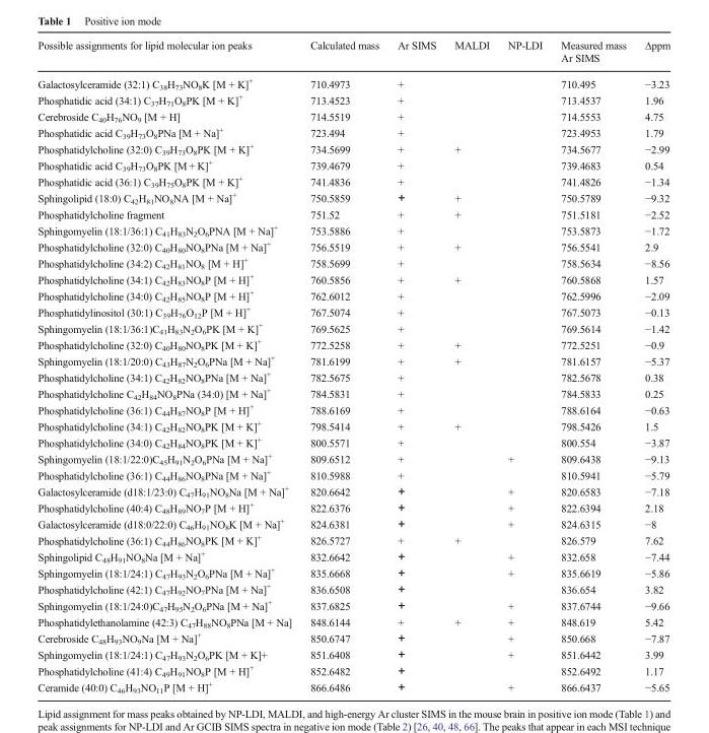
<table><thead><tr><td>Possible assignments for lipid molecular ion peaks</td><td>Calculated mass</td><td>Ar SIMS</td><td>MALDI</td><td>NP-LDI</td><td>Measured mass Ar SIMS</td><td>Δppm</td></tr></thead><tbody><tr><td>Galactosylceramide (32:1) C<sub>38</sub>H<sub>73</sub>NO<sub>8</sub>K [M + K]<sup>+</sup></td><td>710.4973</td><td>+</td><td></td><td></td><td>710.495</td><td>−3.23</td></tr><tr><td>Phosphatidic acid (34:1) C<sub>37</sub>H<sub>71</sub>O<sub>8</sub>PK [M + K]<sup>+</sup></td><td>713.4523</td><td>+</td><td></td><td></td><td>713.4537</td><td>1.96</td></tr><tr><td>Cerebroside C<sub>40</sub>H<sub>76</sub>NO<sub>9</sub> [M + H]</td><td>714.5519</td><td>+</td><td></td><td></td><td>714.5553</td><td>4.75</td></tr><tr><td>Phosphatidic acid C<sub>39</sub>H<sub>73</sub>O<sub>8</sub>PNa [M + Na]<sup>+</sup></td><td>723.494</td><td>+</td><td></td><td></td><td>723.4953</td><td>1.79</td></tr><tr><td>Phosphatidylcholine (32:0) C<sub>39</sub>H<sub>73</sub>O<sub>8</sub>PK [M + K]<sup>+</sup></td><td>734.5699</td><td>+</td><td>+</td><td></td><td>734.5677</td><td>−2.99</td></tr><tr><td>Phosphatidic acid C<sub>39</sub>H<sub>73</sub>O<sub>8</sub>PK [M + K]<sup>+</sup></td><td>739.4679</td><td>+</td><td></td><td></td><td>739.4683</td><td>0.54</td></tr><tr><td>Phosphatidic acid (36:1) C<sub>39</sub>H<sub>75</sub>O<sub>8</sub>PK [M + K]<sup>+</sup></td><td>741.4836</td><td>+</td><td></td><td></td><td>741.4826</td><td>−1.34</td></tr><tr><td>Sphingolipid (18:0) C<sub>42</sub>H<sub>81</sub>NO<sub>8</sub>NA [M + Na]<sup>+</sup></td><td>750.5859</td><td>+</td><td>+</td><td></td><td>750.5789</td><td>−9.32</td></tr><tr><td>Phosphatidylcholine fragment</td><td>751.52</td><td>+</td><td>+</td><td></td><td>751.5181</td><td>−2.52</td></tr><tr><td>Sphingomyelin (18:1/36:1) C<sub>41</sub>H<sub>83</sub>N<sub>2</sub>O<sub>6</sub>PNA [M + Na]<sup>+</sup></td><td>753.5886</td><td>+</td><td></td><td></td><td>753.5873</td><td>−1.72</td></tr><tr><td>Phosphatidylcholine (32:0) C<sub>40</sub>H<sub>80</sub>NO<sub>8</sub>PNa [M + Na]<sup>+</sup></td><td>756.5519</td><td>+</td><td>+</td><td></td><td>756.5541</td><td>2.9</td></tr><tr><td>Phosphatidylcholine (34:2) C<sub>42</sub>H<sub>81</sub>NO<sub>8</sub> [M + H]<sup>+</sup></td><td>758.5699</td><td>+</td><td></td><td></td><td>758.5634</td><td>−8.56</td></tr><tr><td>Phosphatidylcholine (34:1) C<sub>42</sub>H<sub>83</sub>NO<sub>8</sub>P [M + H]<sup>+</sup></td><td>760.5856</td><td>+</td><td>+</td><td></td><td>760.5868</td><td>1.57</td></tr><tr><td>Phosphatidylcholine (34:0) C<sub>42</sub>H<sub>85</sub>NO<sub>8</sub>P [M + H]<sup>+</sup></td><td>762.6012</td><td>+</td><td></td><td></td><td>762.5996</td><td>−2.09</td></tr><tr><td>Phosphatidylinositol (30:1) C<sub>39</sub>H<sub>76</sub>O<sub>12</sub>P [M + H]<sup>+</sup></td><td>767.5074</td><td>+</td><td></td><td></td><td>767.5073</td><td>−0.13</td></tr><tr><td>Sphingomyelin (18:1/36:1)C<sub>41</sub>H<sub>83</sub>N<sub>2</sub>O<sub>6</sub>PK [M + K]<sup>+</sup></td><td>769.5625</td><td>+</td><td></td><td></td><td>769.5614</td><td>−1.42</td></tr><tr><td>Phosphatidylcholine (32:0) C<sub>40</sub>H<sub>80</sub>NO<sub>8</sub>PK [M + K]<sup>+</sup></td><td>772.5258</td><td>+</td><td>+</td><td></td><td>772.5251</td><td>−0.9</td></tr><tr><td>Sphingomyelin (18:1/20:0) C<sub>43</sub>H<sub>87</sub>N<sub>2</sub>O<sub>6</sub>PNa [M + Na]<sup>+</sup></td><td>781.6199</td><td>+</td><td>+</td><td></td><td>781.6157</td><td>−5.37</td></tr><tr><td>Phosphatidylcholine (34:1) C<sub>42</sub>H<sub>82</sub>NO<sub>8</sub>PNa [M + Na]<sup>+</sup></td><td>782.5675</td><td>+</td><td></td><td></td><td>782.5678</td><td>0.38</td></tr><tr><td>Phosphatidylcholine C<sub>42</sub>H<sub>84</sub>NO<sub>8</sub>PNa (34:0) [M + Na]<sup>+</sup></td><td>784.5831</td><td>+</td><td></td><td></td><td>784.5833</td><td>0.25</td></tr><tr><td>Phosphatidylcholine (36:1) C<sub>44</sub>H<sub>87</sub>NO<sub>8</sub>P [M + H]<sup>+</sup></td><td>788.6169</td><td>+</td><td></td><td></td><td>788.6164</td><td>−0.63</td></tr><tr><td>Phosphatidylcholine (34:1) C<sub>42</sub>H<sub>82</sub>NO<sub>8</sub>PK [M + K]<sup>+</sup></td><td>798.5414</td><td>+</td><td>+</td><td></td><td>798.5426</td><td>1.5</td></tr><tr><td>Phosphatidylcholine (34:0) C<sub>42</sub>H<sub>84</sub>NO<sub>8</sub>PK [M + K]<sup>+</sup></td><td>800.5571</td><td>+</td><td></td><td></td><td>800.554</td><td>−3.87</td></tr><tr><td>Sphingomyelin (18:1/22:0)C<sub>45</sub>H<sub>91</sub>N<sub>2</sub>O<sub>6</sub>PNa [M + Na]<sup>+</sup></td><td>809.6512</td><td>+</td><td></td><td>+</td><td>809.6438</td><td>−9.13</td></tr><tr><td>Phosphatidylcholine (36:1) C<sub>44</sub>H<sub>86</sub>NO<sub>8</sub>PNa [M + Na]<sup>+</sup></td><td>810.5988</td><td>+</td><td></td><td></td><td>810.5941</td><td>−5.79</td></tr><tr><td>Galactosylceramide (d18:1/23:0) C<sub>47</sub>H<sub>91</sub>NO<sub>8</sub>Na [M + Na]<sup>+</sup></td><td>820.6642</td><td>+</td><td></td><td>+</td><td>820.6583</td><td>−7.18</td></tr><tr><td>Phosphatidylcholine (40:4) C<sub>48</sub>H<sub>89</sub>NO<sub>7</sub>P [M + H]<sup>+</sup></td><td>822.6376</td><td>+</td><td></td><td>+</td><td>822.6394</td><td>2.18</td></tr><tr><td>Galactosylceramide (d18:0/22:0) C<sub>46</sub>H<sub>91</sub>NO<sub>8</sub>K [M + Na]<sup>+</sup></td><td>824.6381</td><td>+</td><td></td><td>+</td><td>824.6315</td><td>−8</td></tr><tr><td>Phosphatidylcholine (36:1) C<sub>44</sub>H<sub>86</sub>NO<sub>8</sub>PK [M + K]<sup>+</sup></td><td>826.5727</td><td>+</td><td>+</td><td></td><td>826.579</td><td>7.62</td></tr><tr><td>Sphingolipid C<sub>48</sub>H<sub>91</sub>NO<sub>8</sub>Na [M + Na]<sup>+</sup></td><td>832.6642</td><td>+</td><td></td><td>+</td><td>832.658</td><td>−7.44</td></tr><tr><td>Sphingomyelin (18:1/24:1) C<sub>47</sub>H<sub>93</sub>N<sub>2</sub>O<sub>6</sub>PNa [M + Na]<sup>+</sup></td><td>835.6668</td><td>+</td><td></td><td>+</td><td>835.6619</td><td>−5.86</td></tr><tr><td>Phosphatidylcholine (42:1) C<sub>47</sub>H<sub>92</sub>NO<sub>7</sub>PNa [M + Na]<sup>+</sup></td><td>836.6508</td><td>+</td><td></td><td></td><td>836.654</td><td>3.82</td></tr><tr><td>Sphingomyelin (18:1/24:0)C<sub>47</sub>H<sub>95</sub>N<sub>2</sub>O<sub>6</sub>PNa [M + Na]<sup>+</sup></td><td>837.6825</td><td>+</td><td></td><td>+</td><td>837.6744</td><td>−9.66</td></tr><tr><td>Phosphatidylethanolamine (42:3) C<sub>47</sub>H<sub>88</sub>NO<sub>8</sub>PNa [M + Na]</td><td>848.6144</td><td>+</td><td>+</td><td>+</td><td>848.619</td><td>5.42</td></tr><tr><td>Cerebroside C<sub>48</sub>H<sub>93</sub>NO<sub>9</sub>Na [M + Na]<sup>+</sup></td><td>850.6747</td><td>+</td><td></td><td>+</td><td>850.668</td><td>−7.87</td></tr><tr><td>Sphingomyelin (18:1/24:1) C<sub>47</sub>H<sub>93</sub>N<sub>2</sub>O<sub>6</sub>PK [M + K]+</td><td>851.6408</td><td>+</td><td></td><td>+</td><td>851.6442</td><td>3.99</td></tr><tr><td>Phosphatidylcholine (41:4) C<sub>49</sub>H<sub>91</sub>NO<sub>8</sub>P [M + H]<sup>+</sup></td><td>852.6482</td><td>+</td><td></td><td></td><td>852.6492</td><td>1.17</td></tr><tr><td>Ceramide (40:0) C<sub>46</sub>H<sub>93</sub>NO<sub>11</sub>P [M + H]<sup>+</sup></td><td>866.6486</td><td>+</td><td></td><td>+</td><td>866.6437</td><td>−5.65</td></tr></tbody></table>